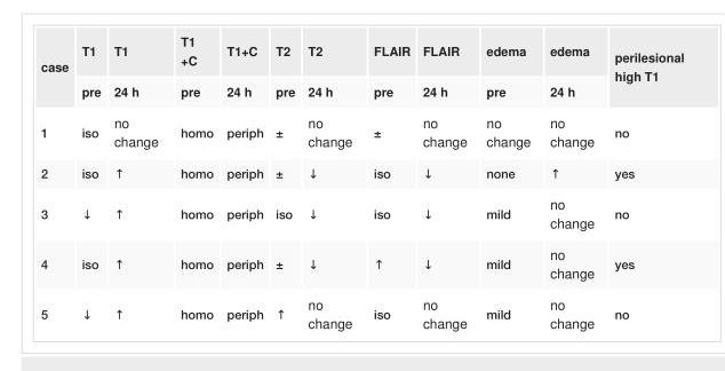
<table><tbody><tr><td rowspan="2">case</td><td>T1</td><td>T1</td><td>T1 +C</td><td>T1+C</td><td>T2</td><td>T2</td><td>FLAIR</td><td>FLAIR</td><td>edema</td><td>edema</td><td rowspan="2">perilesional high T1</td></tr><tr><td>pre</td><td>24 h</td><td>pre</td><td>24 h</td><td>pre</td><td>24 h</td><td>pre</td><td>24 h</td><td>pre</td><td>24 h</td></tr><tr><td>1</td><td>iso</td><td>no change</td><td>homo</td><td>periph</td><td>±</td><td>no change</td><td>±</td><td>no change</td><td>no change</td><td>no change</td><td>no</td></tr><tr><td>2</td><td>iso</td><td>↑</td><td>homo</td><td>periph</td><td>±</td><td>↓</td><td>iso</td><td>↓</td><td>none</td><td>↑</td><td>yes</td></tr><tr><td>3</td><td>↓</td><td>↑</td><td>homo</td><td>periph</td><td>iso</td><td>↓</td><td>iso</td><td>↓</td><td>mild</td><td>no change</td><td>no</td></tr><tr><td>4</td><td>iso</td><td>↑</td><td>homo</td><td>periph</td><td>±</td><td>↓</td><td>↑</td><td>↓</td><td>mild</td><td>no change</td><td>yes</td></tr><tr><td>5</td><td>↓</td><td>↑</td><td>homo</td><td>periph</td><td>↑</td><td>no change</td><td>iso</td><td>no change</td><td>mild</td><td>no change</td><td>no</td></tr></tbody></table>